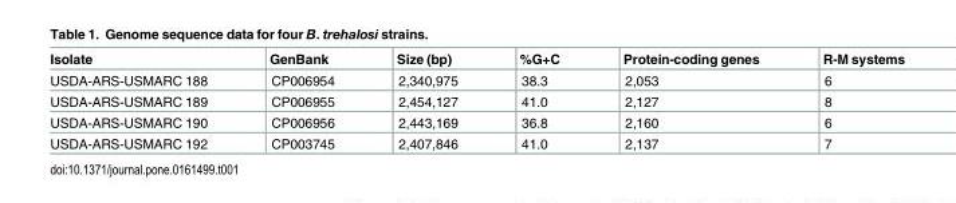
<table><thead><tr><td>Isolate</td><td>GenBank</td><td>Size (bp)</td><td>%G+C</td><td>Protein-coding genes</td><td>R-M systems</td></tr></thead><tbody><tr><td>USDA-ARS-USMARC 188</td><td>CP006954</td><td>2,340,975</td><td>38.3</td><td>2,053</td><td>6</td></tr><tr><td>USDA-ARS-USMARC 189</td><td>CP006955</td><td>2,454,127</td><td>41.0</td><td>2,127</td><td>8</td></tr><tr><td>USDA-ARS-USMARC 190</td><td>CP006956</td><td>2,443,169</td><td>36.8</td><td>2,160</td><td>6</td></tr><tr><td>USDA-ARS-USMARC 192</td><td>CP003745</td><td>2,407,846</td><td>41.0</td><td>2,137</td><td>7</td></tr></tbody></table>